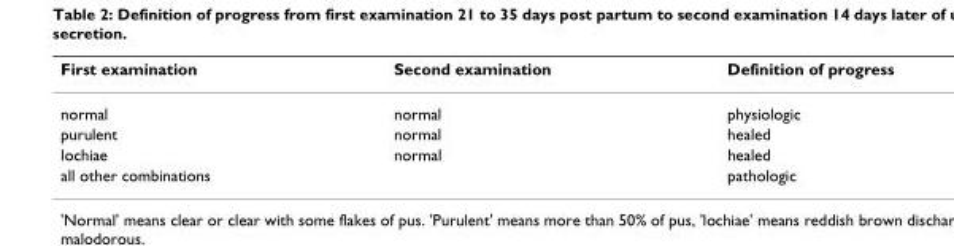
<table><thead><tr><td>First examination</td><td>Second examination</td><td>Definition of progress</td></tr></thead><tbody><tr><td>normal</td><td>normal</td><td>physiologic</td></tr><tr><td>purulent</td><td>normal</td><td>healed</td></tr><tr><td>lochiae</td><td>normal</td><td>healed</td></tr><tr><td>all other combinations</td><td></td><td>pathologic</td></tr></tbody></table>